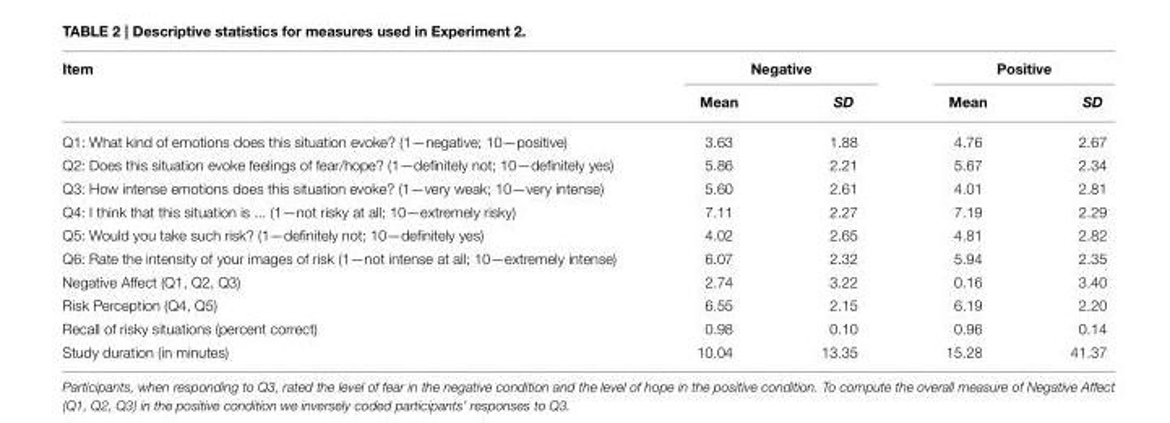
<table><thead><tr><td rowspan="2">Item</td><td colspan="2">Negative</td><td colspan="2">Positive</td></tr><tr><td>Mean</td><td>SD</td><td>Mean</td><td>SD</td></tr></thead><tbody><tr><td>Q1: What kind of emotions does this situation evoke? (1—negative; 10—positive)</td><td>3.63</td><td>1.88</td><td>4.76</td><td>2.67</td></tr><tr><td>Q2: Does this situation evoke feelings of fear/hope? (1—definitely not; 10—definitely yes)</td><td>5.86</td><td>2.21</td><td>5.67</td><td>2.34</td></tr><tr><td>Q3: How intense emotions does this situation evoke? (1—very weak; 10—very intense)</td><td>5.60</td><td>2.61</td><td>4.01</td><td>2.81</td></tr><tr><td>Q4: I think that this situation is ... (1—not risky at all; 10—extremely risky)</td><td>7.11</td><td>2.27</td><td>7.19</td><td>2.29</td></tr><tr><td>Q5: Would you take such risk? (1—definitely not; 10—definitely yes)</td><td>4.02</td><td>2.65</td><td>4.81</td><td>2.82</td></tr><tr><td>Q6: Rate the intensity of your images of risk (1—not intense at all; 10—extremely intense)</td><td>6.07</td><td>2.32</td><td>5.94</td><td>2.35</td></tr><tr><td>Negative Affect (Q1, Q2, Q3)</td><td>2.74</td><td>3.22</td><td>0.16</td><td>3.40</td></tr><tr><td>Risk Perception (Q4, Q5)</td><td>6.55</td><td>2.15</td><td>6.19</td><td>2.20</td></tr><tr><td>Recall of risky situations (percent correct)</td><td>0.98</td><td>0.10</td><td>0.96</td><td>0.14</td></tr><tr><td>Study duration (in minutes)</td><td>10.04</td><td>13.35</td><td>15.28</td><td>41.37</td></tr></tbody></table>